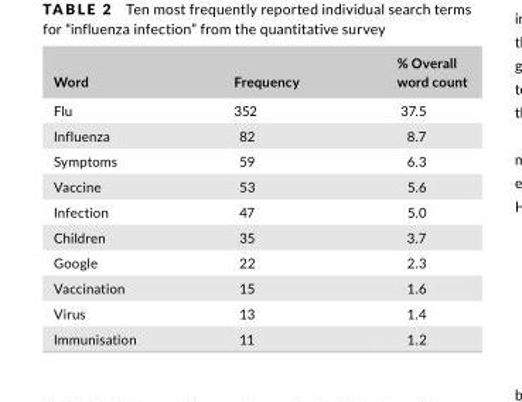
<table><thead><tr><td>Word</td><td>Frequency</td><td>% Overall word count</td></tr></thead><tbody><tr><td>Flu</td><td>352</td><td>37.5</td></tr><tr><td>Influenza</td><td>82</td><td>8.7</td></tr><tr><td>Symptoms</td><td>59</td><td>6.3</td></tr><tr><td>Vaccine</td><td>53</td><td>5.6</td></tr><tr><td>Infection</td><td>47</td><td>5.0</td></tr><tr><td>Children</td><td>35</td><td>3.7</td></tr><tr><td>Google</td><td>22</td><td>2.3</td></tr><tr><td>Vaccination</td><td>15</td><td>1.6</td></tr><tr><td>Virus</td><td>13</td><td>1.4</td></tr><tr><td>Immunisation</td><td>11</td><td>1.2</td></tr></tbody></table>